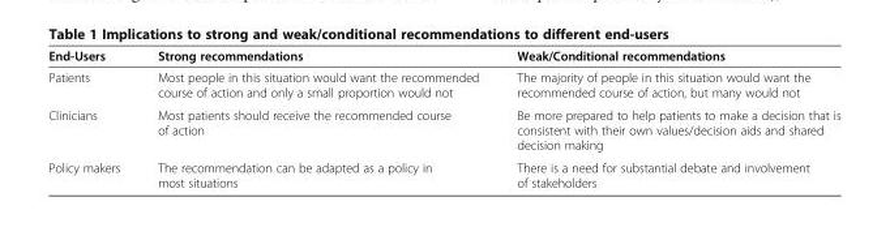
<table><thead><tr><td>End-Users</td><td>Strong recommendations</td><td>Weak/Conditional recommendations</td></tr></thead><tbody><tr><td>Patients</td><td>Most people in this situation would want the recommended course of action and only a small proportion would not</td><td>The majority of people in this situation would want the recommended course of action, but many would not</td></tr><tr><td>Clinicians</td><td>Most patients should receive the recommended course of action</td><td>Be more prepared to help patients to make a decision that is consistent with their own values/decision aids and shared decision making</td></tr><tr><td>Policy makers</td><td>The recommendation can be adapted as a policy in most situations</td><td>There is a need for substantial debate and involvement of stakeholders</td></tr></tbody></table>